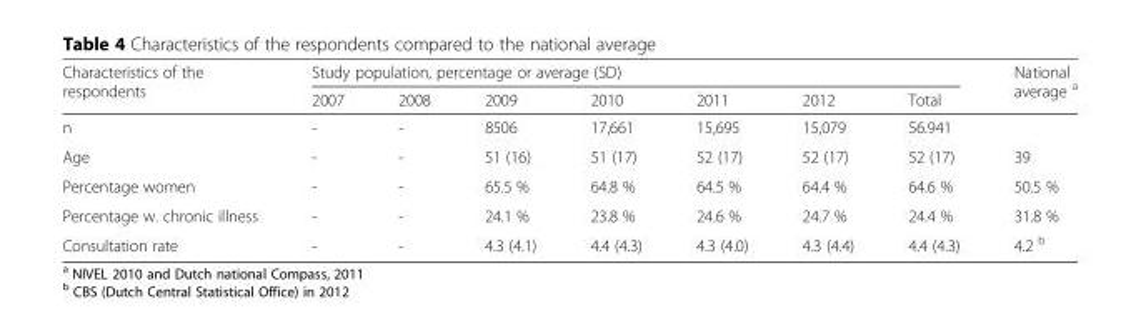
<table><thead><tr><td rowspan="2">Characteristics of the respondents</td><td colspan="7">Study population, percentage or average (SD)</td><td rowspan="2">National average <sup>a</sup></td></tr><tr><td>2007</td><td>2008</td><td>2009</td><td>2010</td><td>2011</td><td>2012</td><td>Total</td></tr></thead><tbody><tr><td>n</td><td>-</td><td>-</td><td>8506</td><td>17,661</td><td>15,695</td><td>15,079</td><td>56.941</td><td></td></tr><tr><td>Age</td><td>-</td><td>-</td><td>51 (16)</td><td>51 (17)</td><td>52 (17)</td><td>52 (17)</td><td>52 (17)</td><td>39</td></tr><tr><td>Percentage women</td><td>-</td><td>-</td><td>65.5 %</td><td>64.8 %</td><td>64.5 %</td><td>64.4 %</td><td>64.6 %</td><td>50.5 %</td></tr><tr><td>Percentage w. chronic illness</td><td>-</td><td>-</td><td>24.1 %</td><td>23.8 %</td><td>24.6 %</td><td>24.7 %</td><td>24.4 %</td><td>31.8 %</td></tr><tr><td>Consultation rate</td><td>-</td><td>-</td><td>4.3 (4.1)</td><td>4.4 (4.3)</td><td>4.3 (4.0)</td><td>4.3 (4.4)</td><td>4.4 (4.3)</td><td>4.2 <sup>b</sup></td></tr></tbody></table>